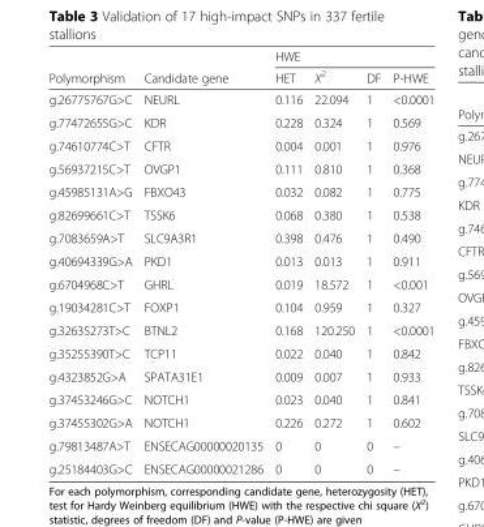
<table><thead><tr><td rowspan="2">Polymorphism</td><td rowspan="2">Candidate gene</td><td colspan="4">HWE</td></tr><tr><td>HET</td><td>X<sup>2</sup></td><td>DF</td><td>P-HWE</td></tr></thead><tbody><tr><td>g.26775767G&gt;C</td><td>NEURL</td><td>0.116</td><td>22.094</td><td>1</td><td>&lt;0.0001</td></tr><tr><td>g.77472655G&gt;C</td><td>KDR</td><td>0.228</td><td>0.324</td><td>1</td><td>0.569</td></tr><tr><td>g.74610774C&gt;T</td><td>CFTR</td><td>0.004</td><td>0.001</td><td>1</td><td>0.976</td></tr><tr><td>g.56937215C&gt;T</td><td>OVGP1</td><td>0.111</td><td>0.810</td><td>1</td><td>0.368</td></tr><tr><td>g.45985131A&gt;G</td><td>FBXO43</td><td>0.032</td><td>0.082</td><td>1</td><td>0.775</td></tr><tr><td>g.82699661C&gt;T</td><td>TSSK6</td><td>0.068</td><td>0.380</td><td>1</td><td>0.538</td></tr><tr><td>g.7083659A&gt;T</td><td>SLC9A3R1</td><td>0.398</td><td>0.476</td><td>1</td><td>0.490</td></tr><tr><td>g.40694339G&gt;A</td><td>PKD1</td><td>0.013</td><td>0.013</td><td>1</td><td>0.911</td></tr><tr><td>g.6704968C&gt;T</td><td>GHRL</td><td>0.019</td><td>18.572</td><td>1</td><td>&lt;0.001</td></tr><tr><td>g.19034281C&gt;T</td><td>FOXP1</td><td>0.104</td><td>0.959</td><td>1</td><td>0.327</td></tr><tr><td>g.32635273T&gt;C</td><td>BTNL2</td><td>0.168</td><td>120.250</td><td>1</td><td>&lt;0.0001</td></tr><tr><td>g.35255390T&gt;C</td><td>TCP11</td><td>0.022</td><td>0.040</td><td>1</td><td>0.842</td></tr><tr><td>g.4323852G&gt;A</td><td>SPATA31E1</td><td>0.009</td><td>0.007</td><td>1</td><td>0.933</td></tr><tr><td>g.37453246G&gt;C</td><td>NOTCH1</td><td>0.023</td><td>0.040</td><td>1</td><td>0.841</td></tr><tr><td>g.37455302G&gt;A</td><td>NOTCH1</td><td>0.226</td><td>0.272</td><td>1</td><td>0.602</td></tr><tr><td>g.79813487A&gt;T</td><td>ENSECAG00000020135</td><td>0</td><td>0</td><td>0</td><td>–</td></tr><tr><td>g.25184403G&gt;C</td><td>ENSECAG00000021286</td><td>0</td><td>0</td><td>0</td><td>–</td></tr></tbody></table>